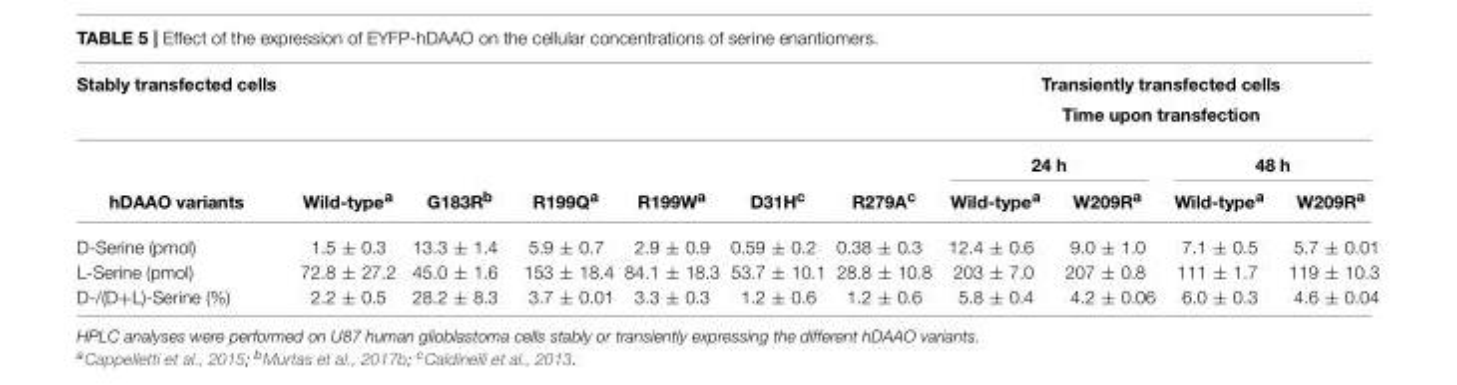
<table><thead><tr><td rowspan="4">Stably transfected cells hDAAO variants</td><td rowspan="4">Wild-type<sup>a</sup></td><td rowspan="4">G183R<sup>b</sup></td><td rowspan="4">R199Q<sup>a</sup></td><td rowspan="4">R199W<sup>a</sup></td><td rowspan="4">D31H<sup>c</sup></td><td rowspan="4">R279A<sup>c</sup></td><td rowspan="2" colspan="4">Transiently transfected cells Time upon transfection</td></tr><tr></tr><tr><td colspan="2">24 h</td><td colspan="2">48 h</td></tr><tr><td>Wild-type<sup>a</sup></td><td>W209R<sup>a</sup></td><td>Wild-type<sup>a</sup></td><td>W209R<sup>a</sup></td></tr></thead><tbody><tr><td>D-Serine (pmol)</td><td>1.5 ± 0.3</td><td>13.3 ± 1.4</td><td>5.9 ± 0.7</td><td>2.9 ± 0.9</td><td>0.59 ± 0.2</td><td>0.38 ± 0.3</td><td>12.4 ± 0.6</td><td>9.0 ± 1.0</td><td>7.1 ± 0.5</td><td>5.7 ± 0.01</td></tr><tr><td>L-Serine (pmol)</td><td>72.8 ± 27.2</td><td>45.0 ± 1.6</td><td>153 ± 18.4</td><td>84.1 ± 18.3</td><td>53.7 ± 10.1</td><td>28.8 ± 10.8</td><td>203 ± 7.0</td><td>207 ± 0.8</td><td>111 ± 1.7</td><td>119 ± 10.3</td></tr><tr><td>D-/(D+L)-Serine (%)</td><td>2.2 ± 0.5</td><td>28.2 ± 8.3</td><td>3.7 ± 0.01</td><td>3.3 ± 0.3</td><td>1.2 ± 0.6</td><td>1.2 ± 0.6</td><td>5.8 ± 0.4</td><td>4.2 ± 0.06</td><td>6.0 ± 0.3</td><td>4.6 ± 0.04</td></tr></tbody></table>